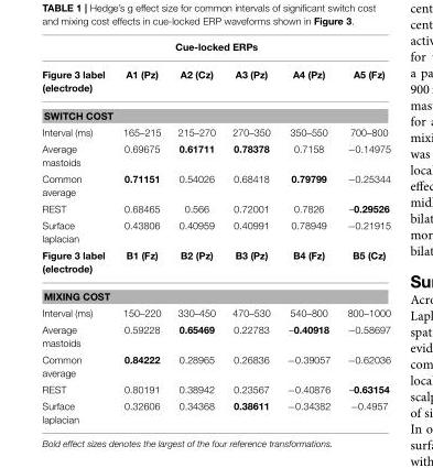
<table><thead><tr><td colspan="6">Cue-locked ERPs</td></tr><tr><td>Figure 3 label (electrode)</td><td>A1 (Pz)</td><td>A2 (Cz)</td><td>A3 (Pz)</td><td>A4 (Pz)</td><td>A5 (Fz)</td></tr></thead><tbody><tr><td colspan="6">SWITCH COST</td></tr><tr><td>Interval (ms)</td><td>165–215</td><td>215–270</td><td>270–350</td><td>350–550</td><td>700–800</td></tr><tr><td>Average mastoids</td><td>0.69675</td><td>0.61711</td><td>0.78378</td><td>0.7158</td><td>−0.14975</td></tr><tr><td>Common average</td><td>0.71151</td><td>0.54026</td><td>0.68418</td><td>0.79799</td><td>−0.25344</td></tr><tr><td>REST</td><td>0.68465</td><td>0.566</td><td>0.72001</td><td>0.7826</td><td>–0.29526</td></tr><tr><td>Surface laplacian</td><td>0.43806</td><td>0.40959</td><td>0.40991</td><td>0.78949</td><td>−0.21915</td></tr><tr><td>Figure 3 label (electrode)</td><td>B1 (Fz)</td><td>B2 (Pz)</td><td>B3 (Pz)</td><td>B4 (Fz)</td><td>B5 (Cz)</td></tr><tr><td colspan="6">MIXING COST</td></tr><tr><td>Interval (ms)</td><td>150–220</td><td>330–450</td><td>470–530</td><td>540–800</td><td>800–1000</td></tr><tr><td>Average mastoids</td><td>0.59228</td><td>0.65469</td><td>0.22783</td><td>–0.40918</td><td>−0.58697</td></tr><tr><td>Common average</td><td>0.84222</td><td>0.28965</td><td>0.26836</td><td>−0.39057</td><td>−0.62036</td></tr><tr><td>REST</td><td>0.80191</td><td>0.38942</td><td>0.23567</td><td>−0.40876</td><td>–0.63154</td></tr><tr><td>Surface laplacian</td><td>0.32606</td><td>0.34368</td><td>0.38611</td><td>−0.34382</td><td>−0.4957</td></tr></tbody></table>